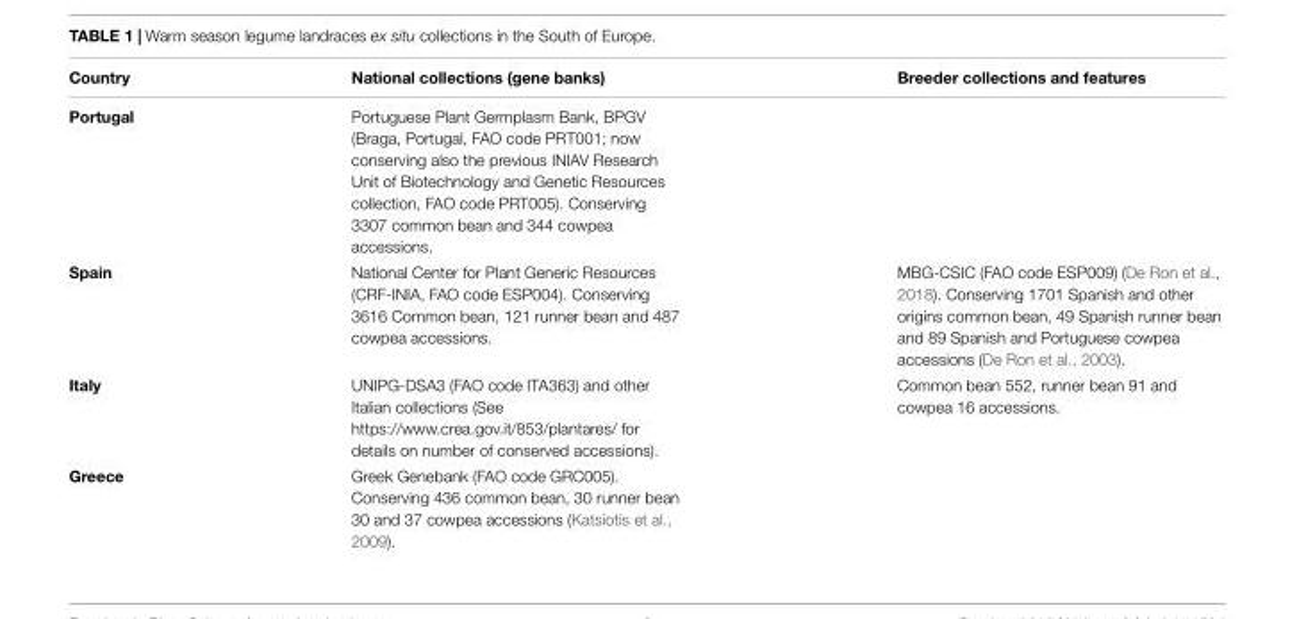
<table><thead><tr><td>Country</td><td>National collections (gene banks)</td><td>Breeder collections and features</td></tr></thead><tbody><tr><td>Portugal</td><td>Portuguese Plant Germplasm Bank, BPGV (Braga, Portugal, FAO code PRT001; now conserving also the previous INIAV Research Unit of Biotechnology and Genetic Resources collection, FAO code PRT005). Conserving 3307 common bean and 344 cowpea accessions.</td><td></td></tr><tr><td>Spain</td><td>National Center for Plant Generic Resources (CRF-INIA, FAO code ESP004). Conserving 3616 Common bean, 121 runner bean and 487 cowpea accessions.</td><td>MBG-CSIC (FAO code ESP009) (De Ron et al., 2018). Conserving 1701 Spanish and other origins common bean, 49 Spanish runner bean and 89 Spanish and Portuguese cowpea accessions (De Ron et al., 2003).</td></tr><tr><td>Italy</td><td>UNIPG-DSA3 (FAO code ITA363) and other Italian collections (See https://www.crea.gov.it/853/plantares/ for details on number of conserved accessions).</td><td>Common bean 552, runner bean 91 and cowpea 16 accessions.</td></tr><tr><td>Greece</td><td>Greek Genebank (FAO code GRC005). Conserving 436 common bean, 30 runner bean 30 and 37 cowpea accessions (Katsiotis et al., 2009).</td><td></td></tr></tbody></table>